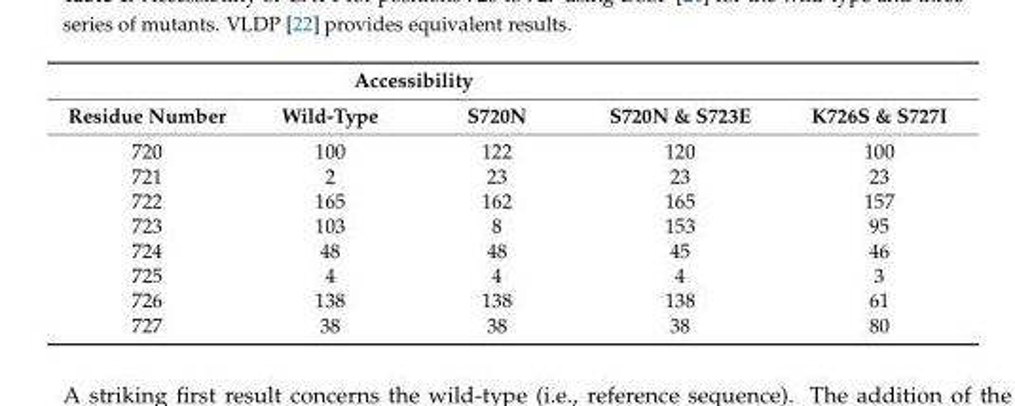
<table><thead><tr><td rowspan="2">Residue Number</td><td colspan="2">Accessibility</td><td rowspan="2">S720N &amp; S723E</td><td rowspan="2">K726S &amp; S727I</td></tr><tr><td>Wild-Type</td><td>S720N</td></tr></thead><tbody><tr><td>720</td><td>100</td><td>122</td><td>120</td><td>100</td></tr><tr><td>721</td><td>2</td><td>23</td><td>23</td><td>23</td></tr><tr><td>722</td><td>165</td><td>162</td><td>165</td><td>157</td></tr><tr><td>723</td><td>103</td><td>8</td><td>153</td><td>95</td></tr><tr><td>724</td><td>48</td><td>48</td><td>45</td><td>46</td></tr><tr><td>725</td><td>4</td><td>4</td><td>4</td><td>3</td></tr><tr><td>726</td><td>138</td><td>138</td><td>138</td><td>61</td></tr><tr><td>727</td><td>38</td><td>38</td><td>38</td><td>80</td></tr></tbody></table>